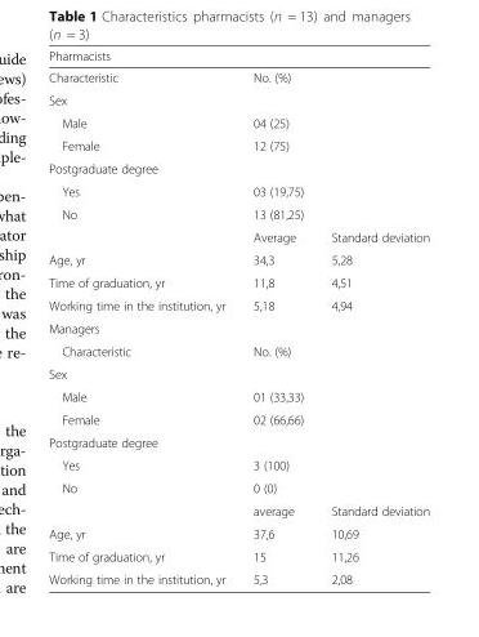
<table><thead><tr><td colspan="3">Pharmacists</td></tr><tr><td>Characteristic</td><td>No. (%)</td><td></td></tr></thead><tbody><tr><td colspan="3">Sex</td></tr><tr><td>Male</td><td>04 (25)</td><td></td></tr><tr><td>Female</td><td>12 (75)</td><td></td></tr><tr><td colspan="3">Postgraduate degree</td></tr><tr><td>Yes</td><td>03 (19,75)</td><td></td></tr><tr><td rowspan="2">No</td><td>13 (81,25)</td><td></td></tr><tr><td>Average</td><td>Standard deviation</td></tr><tr><td>Age, yr</td><td>34,3</td><td>5,28</td></tr><tr><td>Time of graduation, yr</td><td>11,8</td><td>4,51</td></tr><tr><td>Working time in the institution, yr</td><td>5,18</td><td>4,94</td></tr><tr><td colspan="3">Managers</td></tr><tr><td>Characteristic</td><td>No. (%)</td><td></td></tr><tr><td colspan="3">Sex</td></tr><tr><td>Male</td><td>01 (33,33)</td><td></td></tr><tr><td>Female</td><td>02 (66,66)</td><td></td></tr><tr><td colspan="3">Postgraduate degree</td></tr><tr><td>Yes</td><td>3 (100)</td><td></td></tr><tr><td rowspan="2">No</td><td>0 (0)</td><td></td></tr><tr><td>average</td><td>Standard deviation</td></tr><tr><td>Age, yr</td><td>37,6</td><td>10,69</td></tr><tr><td>Time of graduation, yr</td><td>15</td><td>11,26</td></tr><tr><td>Working time in the institution, yr</td><td>5,3</td><td>2,08</td></tr></tbody></table>